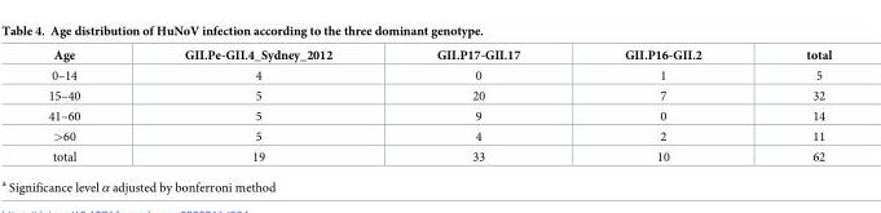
<table><thead><tr><td>Age</td><td>GII.Pe-GII.4_Sydney_2012</td><td>GII.P17-GII.17</td><td>GII.P16-GII.2</td><td>total</td></tr></thead><tbody><tr><td>0–14</td><td>4</td><td>0</td><td>1</td><td>5</td></tr><tr><td>15–40</td><td>5</td><td>20</td><td>7</td><td>32</td></tr><tr><td>41–60</td><td>5</td><td>9</td><td>0</td><td>14</td></tr><tr><td>&gt;60</td><td>5</td><td>4</td><td>2</td><td>11</td></tr><tr><td>total</td><td>19</td><td>33</td><td>10</td><td>62</td></tr></tbody></table>